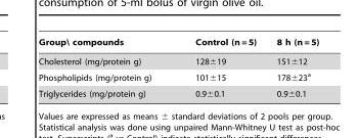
<table><thead><tr><td>Group\ compounds</td><td>Control (n = 5)</td><td>8 h (n = 5)</td></tr></thead><tbody><tr><td>Cholesterol (mg/protein g)</td><td>128±19</td><td>151±12</td></tr><tr><td>Phospholipids (mg/protein g)</td><td>101±15</td><td>178±23<sup>a</sup></td></tr><tr><td>Triglycerides (mg/protein g)</td><td>0.9±0.1</td><td>0.9±0.1</td></tr></tbody></table>